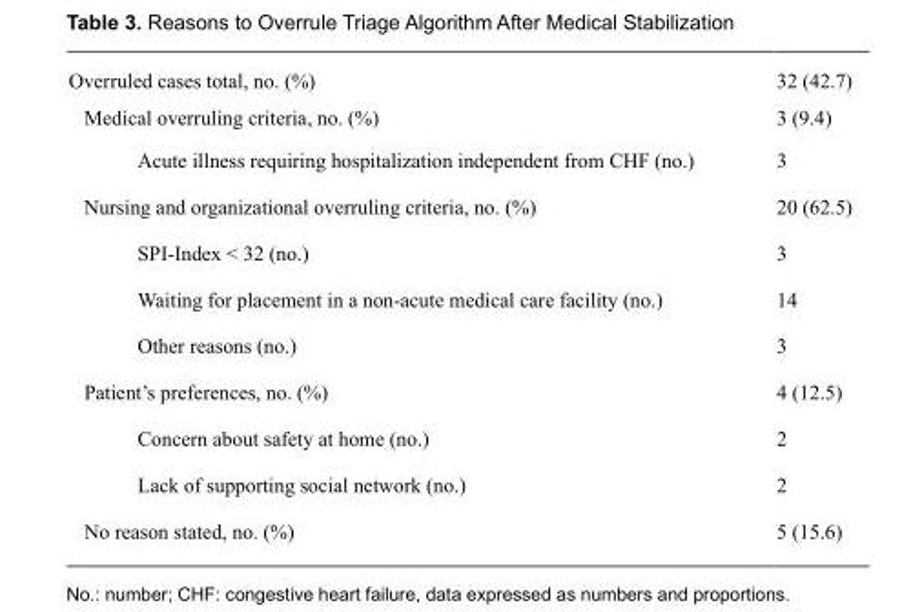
<table><tbody><tr><td>Overruled cases total, no. (%)</td><td>32 (42.7)</td></tr><tr><td>Medical overruling criteria, no. (%)</td><td>3 (9.4)</td></tr><tr><td>Acute illness requiring hospitalization independent from CHF (no.)</td><td>3</td></tr><tr><td>Nursing and organizational overruling criteria, no. (%)</td><td>20 (62.5)</td></tr><tr><td>SPI-Index &lt; 32 (no.)</td><td>3</td></tr><tr><td>Waiting for placement in a non-acute medical care facility (no.)</td><td>14</td></tr><tr><td>Other reasons (no.)</td><td>3</td></tr><tr><td>Patient’s preferences, no. (%)</td><td>4 (12.5)</td></tr><tr><td>Concern about safety at home (no.)</td><td>2</td></tr><tr><td>Lack of supporting social network (no.)</td><td>2</td></tr><tr><td>No reason stated, no. (%)</td><td>5 (15.6)</td></tr></tbody></table>